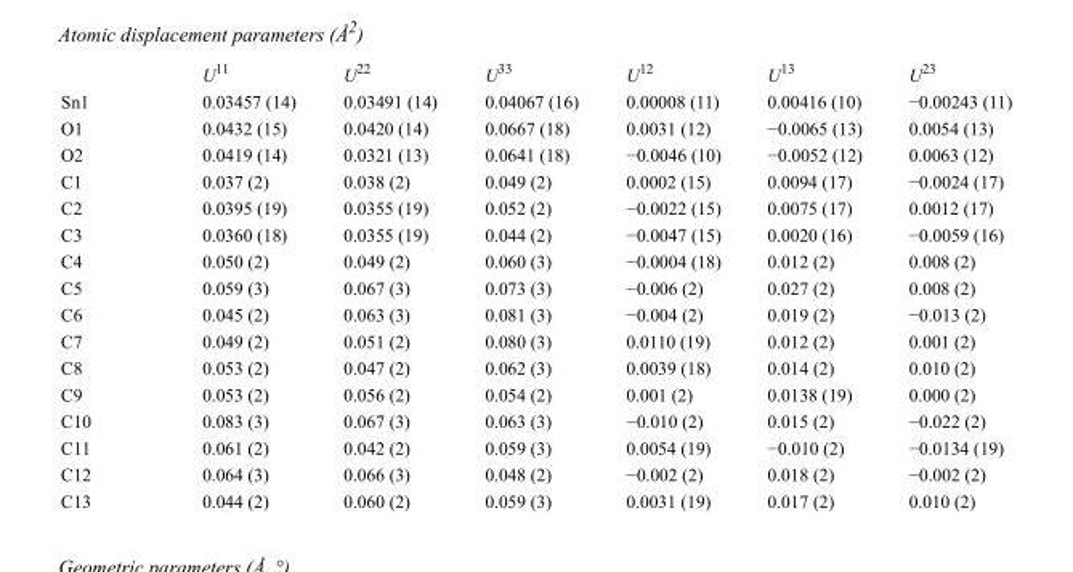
<table><thead><tr><td></td><td>U<sup>11</sup></td><td>U<sup>22</sup></td><td>U<sup>33</sup></td><td>U<sup>12</sup></td><td>U<sup>13</sup></td><td>U<sup>23</sup></td></tr></thead><tbody><tr><td>Sn1</td><td>0.03457 (14)</td><td>0.03491 (14)</td><td>0.04067 (16)</td><td>0.00008 (11)</td><td>0.00416 (10)</td><td>−0.00243 (11)</td></tr><tr><td>O1</td><td>0.0432 (15)</td><td>0.0420 (14)</td><td>0.0667 (18)</td><td>0.0031 (12)</td><td>−0.0065 (13)</td><td>0.0054 (13)</td></tr><tr><td>O2</td><td>0.0419 (14)</td><td>0.0321 (13)</td><td>0.0641 (18)</td><td>−0.0046 (10)</td><td>−0.0052 (12)</td><td>0.0063 (12)</td></tr><tr><td>C1</td><td>0.037 (2)</td><td>0.038 (2)</td><td>0.049 (2)</td><td>0.0002 (15)</td><td>0.0094 (17)</td><td>−0.0024 (17)</td></tr><tr><td>C2</td><td>0.0395 (19)</td><td>0.0355 (19)</td><td>0.052 (2)</td><td>−0.0022 (15)</td><td>0.0075 (17)</td><td>0.0012 (17)</td></tr><tr><td>C3</td><td>0.0360 (18)</td><td>0.0355 (19)</td><td>0.044 (2)</td><td>−0.0047 (15)</td><td>0.0020 (16)</td><td>−0.0059 (16)</td></tr><tr><td>C4</td><td>0.050 (2)</td><td>0.049 (2)</td><td>0.060 (3)</td><td>−0.0004 (18)</td><td>0.012 (2)</td><td>0.008 (2)</td></tr><tr><td>C5</td><td>0.059 (3)</td><td>0.067 (3)</td><td>0.073 (3)</td><td>−0.006 (2)</td><td>0.027 (2)</td><td>0.008 (2)</td></tr><tr><td>C6</td><td>0.045 (2)</td><td>0.063 (3)</td><td>0.081 (3)</td><td>−0.004 (2)</td><td>0.019 (2)</td><td>−0.013 (2)</td></tr><tr><td>C7</td><td>0.049 (2)</td><td>0.051 (2)</td><td>0.080 (3)</td><td>0.0110 (19)</td><td>0.012 (2)</td><td>0.001 (2)</td></tr><tr><td>C8</td><td>0.053 (2)</td><td>0.047 (2)</td><td>0.062 (3)</td><td>0.0039 (18)</td><td>0.014 (2)</td><td>0.010 (2)</td></tr><tr><td>C9</td><td>0.053 (2)</td><td>0.056 (2)</td><td>0.054 (2)</td><td>0.001 (2)</td><td>0.0138 (19)</td><td>0.000 (2)</td></tr><tr><td>C10</td><td>0.083 (3)</td><td>0.067 (3)</td><td>0.063 (3)</td><td>−0.010 (2)</td><td>0.015 (2)</td><td>−0.022 (2)</td></tr><tr><td>C11</td><td>0.061 (2)</td><td>0.042 (2)</td><td>0.059 (3)</td><td>0.0054 (19)</td><td>−0.010 (2)</td><td>−0.0134 (19)</td></tr><tr><td>C12</td><td>0.064 (3)</td><td>0.066 (3)</td><td>0.048 (2)</td><td>−0.002 (2)</td><td>0.018 (2)</td><td>−0.002 (2)</td></tr><tr><td>C13</td><td>0.044 (2)</td><td>0.060 (2)</td><td>0.059 (3)</td><td>0.0031 (19)</td><td>0.017 (2)</td><td>0.010 (2)</td></tr></tbody></table>